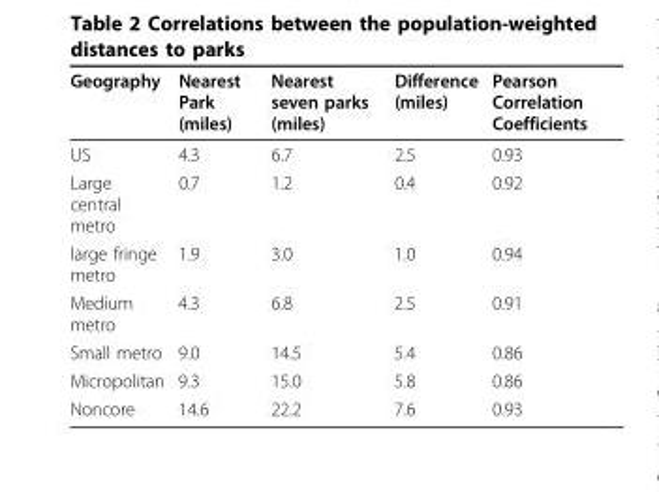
<table><thead><tr><td>Geography</td><td>Nearest Park (miles)</td><td>Nearest seven parks (miles)</td><td>Difference (miles)</td><td>Pearson Correlation Coefficients</td></tr></thead><tbody><tr><td>US</td><td>4.3</td><td>6.7</td><td>2.5</td><td>0.93</td></tr><tr><td>Large central metro</td><td>0.7</td><td>1.2</td><td>0.4</td><td>0.92</td></tr><tr><td>large fringe metro</td><td>1.9</td><td>3.0</td><td>1.0</td><td>0.94</td></tr><tr><td>Medium metro</td><td>4.3</td><td>6.8</td><td>2.5</td><td>0.91</td></tr><tr><td>Small metro</td><td>9.0</td><td>14.5</td><td>5.4</td><td>0.86</td></tr><tr><td>Micropolitan</td><td>9.3</td><td>15.0</td><td>5.8</td><td>0.86</td></tr><tr><td>Noncore</td><td>14.6</td><td>22.2</td><td>7.6</td><td>0.93</td></tr></tbody></table>